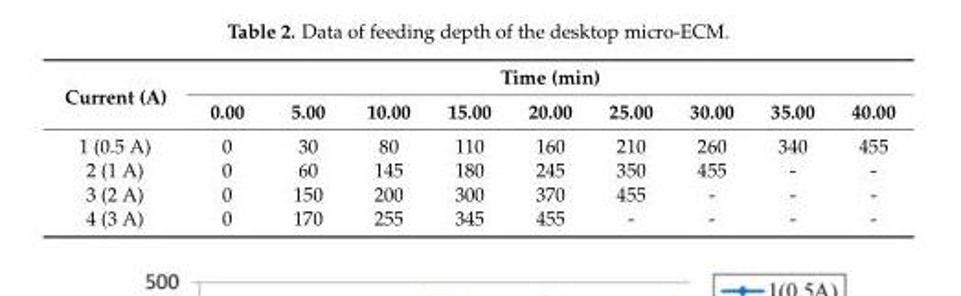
<table><thead><tr><td rowspan="2">Current (A)</td><td colspan="9">Time (min)</td></tr><tr><td>0.00</td><td>5.00</td><td>10.00</td><td>15.00</td><td>20.00</td><td>25.00</td><td>30.00</td><td>35.00</td><td>40.00</td></tr></thead><tbody><tr><td>1 (0.5 A)</td><td>0</td><td>30</td><td>80</td><td>110</td><td>160</td><td>210</td><td>260</td><td>340</td><td>455</td></tr><tr><td>2 (1 A)</td><td>0</td><td>60</td><td>145</td><td>180</td><td>245</td><td>350</td><td>455</td><td>-</td><td>-</td></tr><tr><td>3 (2 A)</td><td>0</td><td>150</td><td>200</td><td>300</td><td>370</td><td>455</td><td>-</td><td>-</td><td>-</td></tr><tr><td>4 (3 A)</td><td>0</td><td>170</td><td>255</td><td>345</td><td>455</td><td>-</td><td>-</td><td>-</td><td>-</td></tr></tbody></table>